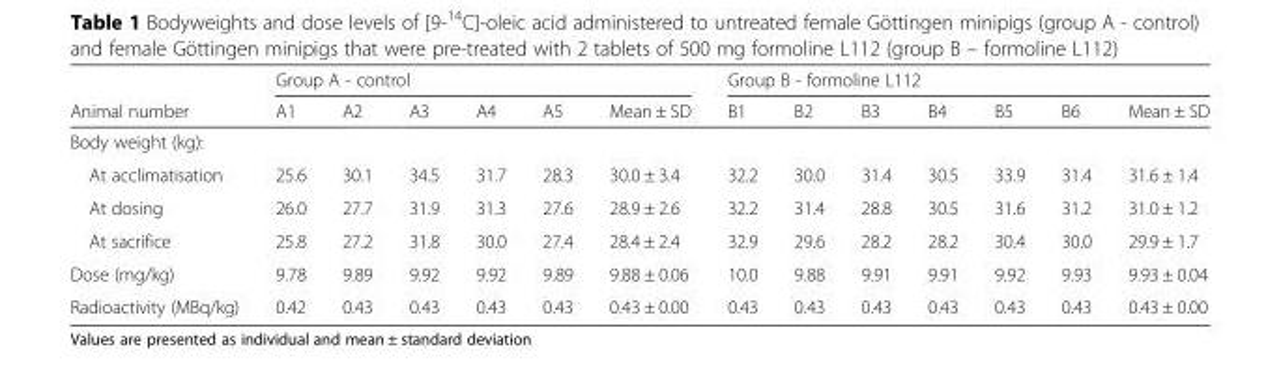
<table><thead><tr><td rowspan="2">Animal number</td><td colspan="6">Group A - control</td><td colspan="7">Group B - formoline L112</td></tr><tr><td>A1</td><td>A2</td><td>A3</td><td>A4</td><td>A5</td><td>Mean ± SD</td><td>B1</td><td>B2</td><td>B3</td><td>B4</td><td>B5</td><td>B6</td><td>Mean ± SD</td></tr></thead><tbody><tr><td colspan="14">Body weight (kg):</td></tr><tr><td>At acclimatisation</td><td>25.6</td><td>30.1</td><td>34.5</td><td>31.7</td><td>28.3</td><td>30.0 ± 3.4</td><td>32.2</td><td>30.0</td><td>31.4</td><td>30.5</td><td>33.9</td><td>31.4</td><td>31.6 ± 1.4</td></tr><tr><td>At dosing</td><td>26.0</td><td>27.7</td><td>31.9</td><td>31.3</td><td>27.6</td><td>28.9 ± 2.6</td><td>32.2</td><td>31.4</td><td>28.8</td><td>30.5</td><td>31.6</td><td>31.2</td><td>31.0 ± 1.2</td></tr><tr><td>At sacrifice</td><td>25.8</td><td>27.2</td><td>31.8</td><td>30.0</td><td>27.4</td><td>28.4 ± 2.4</td><td>32.9</td><td>29.6</td><td>28.2</td><td>28.2</td><td>30.4</td><td>30.0</td><td>29.9 ± 1.7</td></tr><tr><td>Dose (mg/kg)</td><td>9.78</td><td>9.89</td><td>9.92</td><td>9.92</td><td>9.89</td><td>9.88 ± 0.06</td><td>10.0</td><td>9.88</td><td>9.91</td><td>9.91</td><td>9.92</td><td>9.93</td><td>9.93 ± 0.04</td></tr><tr><td>Radioactivity (MBq/kg)</td><td>0.42</td><td>0.43</td><td>0.43</td><td>0.43</td><td>0.43</td><td>0.43 ± 0.00</td><td>0.43</td><td>0.43</td><td>0.43</td><td>0.43</td><td>0.43</td><td>0.43</td><td>0.43 ± 0.00</td></tr></tbody></table>